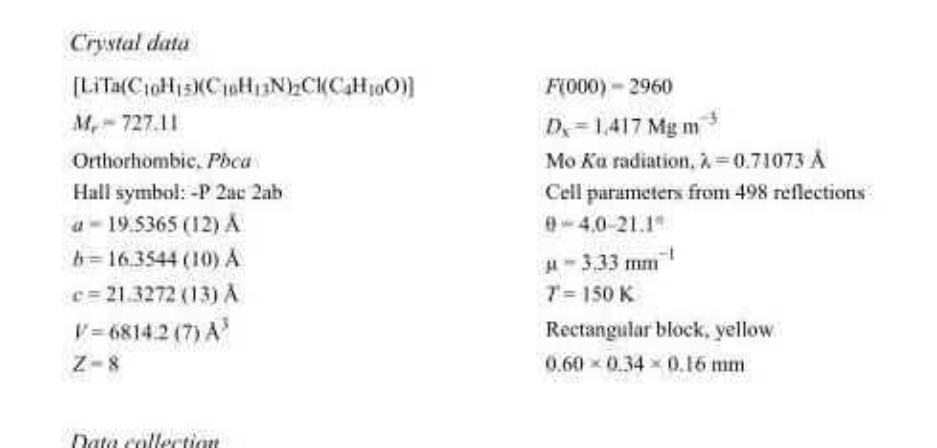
<table><tbody><tr><td>[LiTa(C<sub>10</sub>H<sub>15</sub>)(C<sub>10</sub>H<sub>13</sub>N)<sub>2</sub>Cl(C<sub>4</sub>H<sub>10</sub>O)]</td><td>F(000) = 2960</td></tr><tr><td>M<sub>r</sub> = 727.11</td><td>D<sub>x</sub> = 1.417 Mg m<sup>−3</sup></td></tr><tr><td>Orthorhombic, Pbca</td><td>Mo Kα radiation, λ = 0.71073 Å</td></tr><tr><td>Hall symbol: -P 2ac 2ab</td><td>Cell parameters from 498 reflections</td></tr><tr><td>a = 19.5365 (12) Å</td><td>θ = 4.0–21.1°</td></tr><tr><td>b = 16.3544 (10) Å</td><td>µ = 3.33 mm<sup>−1</sup></td></tr><tr><td>c = 21.3272 (13) Å</td><td>T = 150 K</td></tr><tr><td>V = 6814.2 (7) Å<sup>3</sup></td><td>Rectangular block, yellow</td></tr><tr><td>Z = 8</td><td>0.60 × 0.34 × 0.16 mm</td></tr></tbody></table>